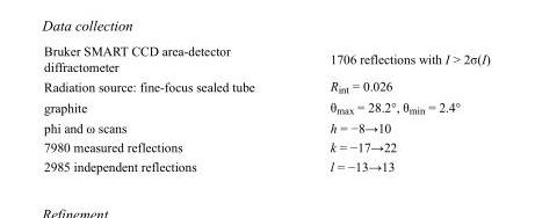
<table><tbody><tr><td>Bruker SMART CCD area-detector diffractometer</td><td>1706 reflections with I &gt; 2σ(I)</td></tr><tr><td>Radiation source: fine-focus sealed tube</td><td>R<sub>int</sub> = 0.026</td></tr><tr><td>graphite</td><td>θ<sub>max</sub> = 28.2°, θ<sub>min</sub> = 2.4°</td></tr><tr><td>phi and ω scans</td><td>h = −8→10</td></tr><tr><td>7980 measured reflections</td><td>k = −17→22</td></tr><tr><td>2985 independent reflections</td><td>l = −13→13</td></tr></tbody></table>